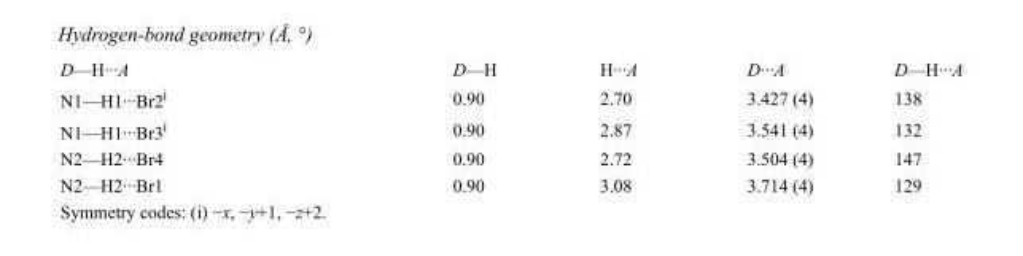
<table><tbody><tr><td>D—H···A</td><td>D—H</td><td>H···A</td><td>D···A</td><td>D—H···A</td></tr><tr><td>N1—H1···Br2<sup>i</sup></td><td>0.90</td><td>2.70</td><td>3.427 (4)</td><td>138</td></tr><tr><td>N1—H1···Br3<sup>i</sup></td><td>0.90</td><td>2.87</td><td>3.541 (4)</td><td>132</td></tr><tr><td>N2—H2···Br4</td><td>0.90</td><td>2.72</td><td>3.504 (4)</td><td>147</td></tr><tr><td>N2—H2···Br1</td><td>0.90</td><td>3.08</td><td>3.714 (4)</td><td>129</td></tr></tbody></table>